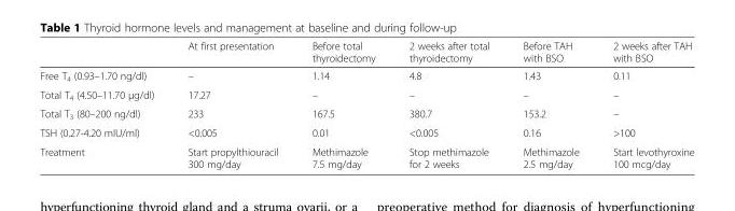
<table><thead><tr><td></td><td>At first presentation</td><td>Before total thyroidectomy</td><td>2 weeks after total thyroidectomy</td><td>Before TAH with BSO</td><td>2 weeks after TAH with BSO</td></tr></thead><tbody><tr><td>Free T<sub>4</sub> (0.93–1.70 ng/dl)</td><td>–</td><td>1.14</td><td>4.8</td><td>1.43</td><td>0.11</td></tr><tr><td>Total T<sub>4</sub> (4.50–11.70 μg/dl)</td><td>17.27</td><td>–</td><td>–</td><td>–</td><td>–</td></tr><tr><td>Total T<sub>3</sub> (80–200 ng/dl)</td><td>233</td><td>167.5</td><td>380.7</td><td>153.2</td><td>–</td></tr><tr><td>TSH (0.27-4.20 mIU/ml)</td><td>&lt;0.005</td><td>0.01</td><td>&lt;0.005</td><td>0.16</td><td>&gt;100</td></tr><tr><td>Treatment</td><td>Start propylthiouracil 300 mg/day</td><td>Methimazole 7.5 mg/day</td><td>Stop methimazole for 2 weeks</td><td>Methimazole 2.5 mg/day</td><td>Start levothyroxine 100 mcg/day</td></tr></tbody></table>